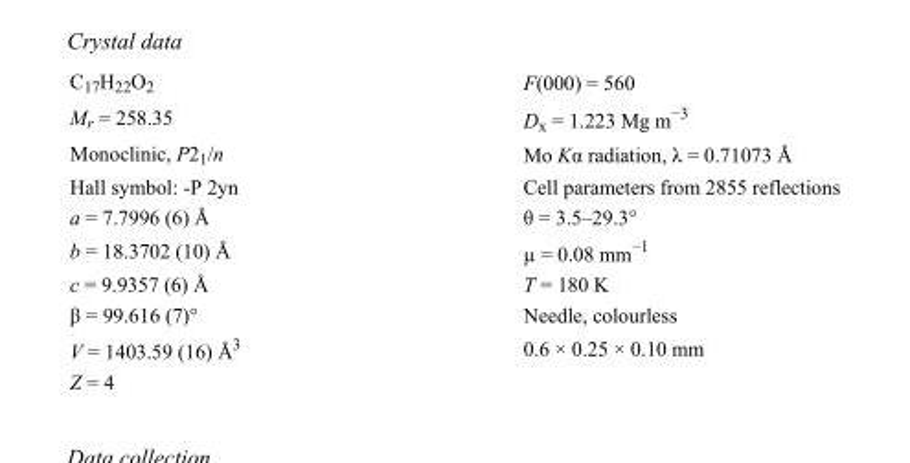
<table><tbody><tr><td>C<sub>17</sub>H<sub>22</sub>O<sub>2</sub></td><td>F(000) = 560</td></tr><tr><td>M<sub>r</sub> = 258.35</td><td>D<sub>x</sub> = 1.223 Mg m<sup>−3</sup></td></tr><tr><td>Monoclinic, P2<sub>1</sub>/n</td><td>Mo Kα radiation, λ = 0.71073 Å</td></tr><tr><td>Hall symbol: -P 2yn</td><td>Cell parameters from 2855 reflections</td></tr><tr><td>a = 7.7996 (6) Å</td><td>θ = 3.5–29.3°</td></tr><tr><td>b = 18.3702 (10) Å</td><td>µ = 0.08 mm<sup>−1</sup></td></tr><tr><td>c = 9.9357 (6) Å</td><td>T = 180 K</td></tr><tr><td>β = 99.616 (7)°</td><td>Needle, colourless</td></tr><tr><td>V = 1403.59 (16) Å<sup>3</sup></td><td>0.6 × 0.25 × 0.10 mm</td></tr><tr><td>Z = 4</td><td></td></tr></tbody></table>